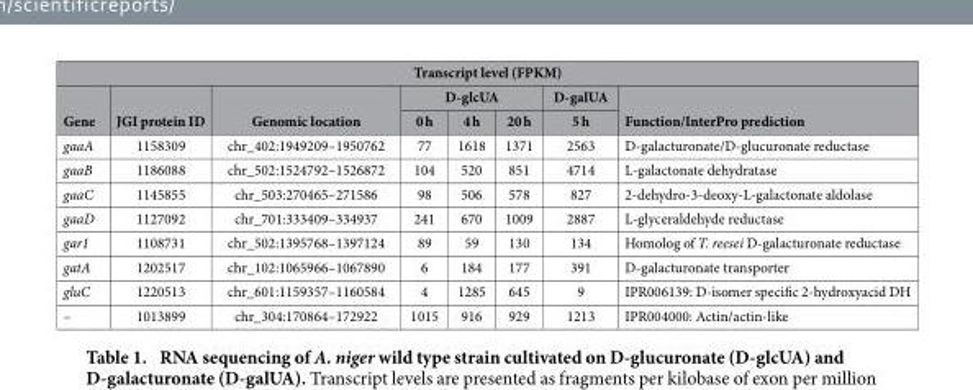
<table><thead><tr><td colspan="8">Transcript level (FPKM)</td></tr><tr><td rowspan="2">Gene</td><td rowspan="2">JGI protein ID</td><td rowspan="2">Genomic location</td><td colspan="3">D-glcUA</td><td rowspan="2">D-galUA 5 h</td><td rowspan="2">Function/InterPro prediction</td></tr><tr><td>0 h</td><td>4 h</td><td>20 h</td></tr></thead><tbody><tr><td>gaaA</td><td>1158309</td><td>chr_402:1949209–1950762</td><td>77</td><td>1618</td><td>1371</td><td>2563</td><td>D-galacturonate/D-glucuronate reductase</td></tr><tr><td>gaaB</td><td>1186088</td><td>chr_502:1524792–1526872</td><td>104</td><td>520</td><td>851</td><td>4714</td><td>L-galactonate dehydratase</td></tr><tr><td>gaaC</td><td>1145855</td><td>chr_503:270465–271586</td><td>98</td><td>506</td><td>578</td><td>827</td><td>2-dehydro-3-deoxy-L-galactonate aldolase</td></tr><tr><td>gaaD</td><td>1127092</td><td>chr_701:333409–334937</td><td>241</td><td>670</td><td>1009</td><td>2887</td><td>L-glyceraldehyde reductase</td></tr><tr><td>gar1</td><td>1108731</td><td>chr_502:1395768–1397124</td><td>89</td><td>59</td><td>130</td><td>134</td><td>Homolog of T. reesei D-galacturonate reductase</td></tr><tr><td>gatA</td><td>1202517</td><td>chr_102:1065966–1067890</td><td>6</td><td>184</td><td>177</td><td>391</td><td>D-galacturonate transporter</td></tr><tr><td>gluC</td><td>1220513</td><td>chr_601:1159357–1160584</td><td>4</td><td>1285</td><td>645</td><td>9</td><td>IPR006139: D-isomer specific 2-hydroxyacid DH</td></tr><tr><td>–</td><td>1013899</td><td>chr_304:170864–172922</td><td>1015</td><td>916</td><td>929</td><td>1213</td><td>IPR004000: Actin/actin-like</td></tr></tbody></table>